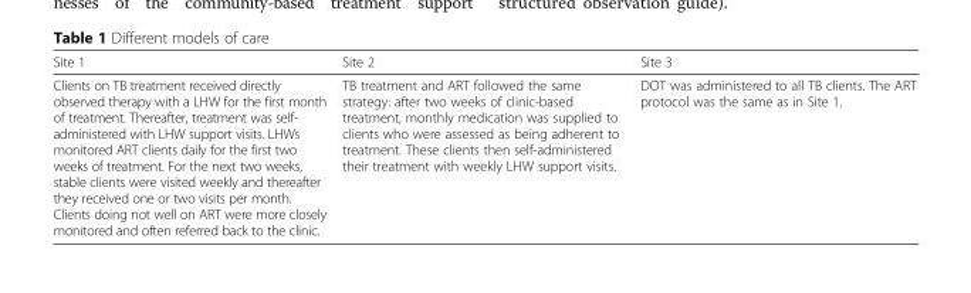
<table><thead><tr><td>Site 1</td><td>Site 2</td><td>Site 3</td></tr></thead><tbody><tr><td>Clients on TB treatment received directly observed therapy with a LHW for the first month of treatment. Thereafter, treatment was self- administered with LHW support visits. LHWs monitored ART clients daily for the first two weeks of treatment. For the next two weeks, stable clients were visited weekly and thereafter they received one or two visits per month. Clients doing not well on ART were more closely monitored and often referred back to the clinic.</td><td>TB treatment and ART followed the same strategy: after two weeks of clinic-based treatment, monthly medication was supplied to clients who were assessed as being adherent to treatment. These clients then self-administered their treatment with weekly LHW support visits.</td><td>DOT was administered to all TB clients. The ART protocol was the same as in Site 1.</td></tr></tbody></table>